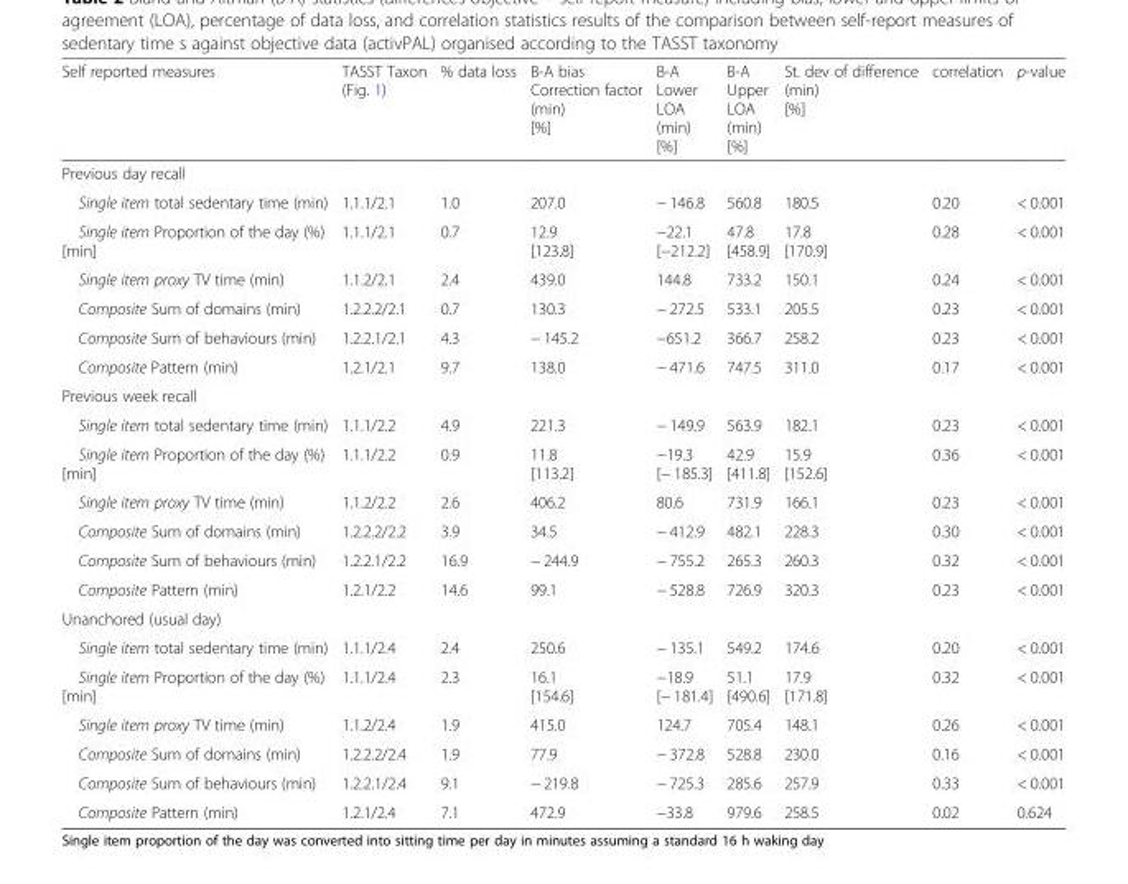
<table><thead><tr><td>Self reported measures</td><td>TASST Taxon (Fig. 1)</td><td>% data loss</td><td>B-A bias Correction factor (min) [%]</td><td>B-A Lower LOA (min) [%]</td><td>B-A Upper LOA (min) [%]</td><td>St. dev of difference (min) [%]</td><td>correlation</td><td>p-value</td></tr></thead><tbody><tr><td colspan="9">Previous day recall</td></tr><tr><td>Single item total sedentary time (min)</td><td>1.1.1/2.1</td><td>1.0</td><td>207.0</td><td>− 146.8</td><td>560.8</td><td>180.5</td><td>0.20</td><td>&lt; 0.001</td></tr><tr><td>Single item Proportion of the day (%) [min]</td><td>1.1.1/2.1</td><td>0.7</td><td>12.9 [123.8]</td><td>−22.1 [−212.2]</td><td>47.8 [458.9]</td><td>17.8 [170.9]</td><td>0.28</td><td>&lt; 0.001</td></tr><tr><td>Single item proxy TV time (min)</td><td>1.1.2/2.1</td><td>2.4</td><td>439.0</td><td>144.8</td><td>733.2</td><td>150.1</td><td>0.24</td><td>&lt; 0.001</td></tr><tr><td>Composite Sum of domains (min)</td><td>1.2.2.2/2.1</td><td>0.7</td><td>130.3</td><td>− 272.5</td><td>533.1</td><td>205.5</td><td>0.23</td><td>&lt; 0.001</td></tr><tr><td>Composite Sum of behaviours (min)</td><td>1.2.2.1/2.1</td><td>4.3</td><td>− 145.2</td><td>−651.2</td><td>366.7</td><td>258.2</td><td>0.23</td><td>&lt; 0.001</td></tr><tr><td>Composite Pattern (min)</td><td>1.2.1/2.1</td><td>9.7</td><td>138.0</td><td>− 471.6</td><td>747.5</td><td>311.0</td><td>0.17</td><td>&lt; 0.001</td></tr><tr><td colspan="9">Previous week recall</td></tr><tr><td>Single item total sedentary time (min)</td><td>1.1.1/2.2</td><td>4.9</td><td>221.3</td><td>− 149.9</td><td>563.9</td><td>182.1</td><td>0.23</td><td>&lt; 0.001</td></tr><tr><td>Single item Proportion of the day (%) [min]</td><td>1.1.1/2.2</td><td>0.9</td><td>11.8 [113.2]</td><td>−19.3 [− 185.3]</td><td>42.9 [411.8]</td><td>15.9 [152.6]</td><td>0.36</td><td>&lt; 0.001</td></tr><tr><td>Single item proxy TV time (min)</td><td>1.1.2/2.2</td><td>2.6</td><td>406.2</td><td>80.6</td><td>731.9</td><td>166.1</td><td>0.23</td><td>&lt; 0.001</td></tr><tr><td>Composite Sum of domains (min)</td><td>1.2.2.2/2.2</td><td>3.9</td><td>34.5</td><td>− 412.9</td><td>482.1</td><td>228.3</td><td>0.30</td><td>&lt; 0.001</td></tr><tr><td>Composite Sum of behaviours (min)</td><td>1.2.2.1/2.2</td><td>16.9</td><td>− 244.9</td><td>− 755.2</td><td>265.3</td><td>260.3</td><td>0.32</td><td>&lt; 0.001</td></tr><tr><td>Composite Pattern (min)</td><td>1.2.1/2.2</td><td>14.6</td><td>99.1</td><td>− 528.8</td><td>726.9</td><td>320.3</td><td>0.23</td><td>&lt; 0.001</td></tr><tr><td colspan="9">Unanchored (usual day)</td></tr><tr><td>Single item total sedentary time (min)</td><td>1.1.1/2.4</td><td>2.4</td><td>250.6</td><td>− 135.1</td><td>549.2</td><td>174.6</td><td>0.20</td><td>&lt; 0.001</td></tr><tr><td>Single item Proportion of the day (%) [min]</td><td>1.1.1/2.4</td><td>2.3</td><td>16.1 [154.6]</td><td>−18.9 [− 181.4]</td><td>51.1 [490.6]</td><td>17.9 [171.8]</td><td>0.32</td><td>&lt; 0.001</td></tr><tr><td>Single item proxy TV time (min)</td><td>1.1.2/2.4</td><td>1.9</td><td>415.0</td><td>124.7</td><td>705.4</td><td>148.1</td><td>0.26</td><td>&lt; 0.001</td></tr><tr><td>Composite Sum of domains (min)</td><td>1.2.2.2/2.4</td><td>1.9</td><td>77.9</td><td>− 372.8</td><td>528.8</td><td>230.0</td><td>0.16</td><td>&lt; 0.001</td></tr><tr><td>Composite Sum of behaviours (min)</td><td>1.2.2.1/2.4</td><td>9.1</td><td>− 219.8</td><td>− 725.3</td><td>285.6</td><td>257.9</td><td>0.33</td><td>&lt; 0.001</td></tr><tr><td>Composite Pattern (min)</td><td>1.2.1/2.4</td><td>7.1</td><td>472.9</td><td>−33.8</td><td>979.6</td><td>258.5</td><td>0.02</td><td>0.624</td></tr></tbody></table>